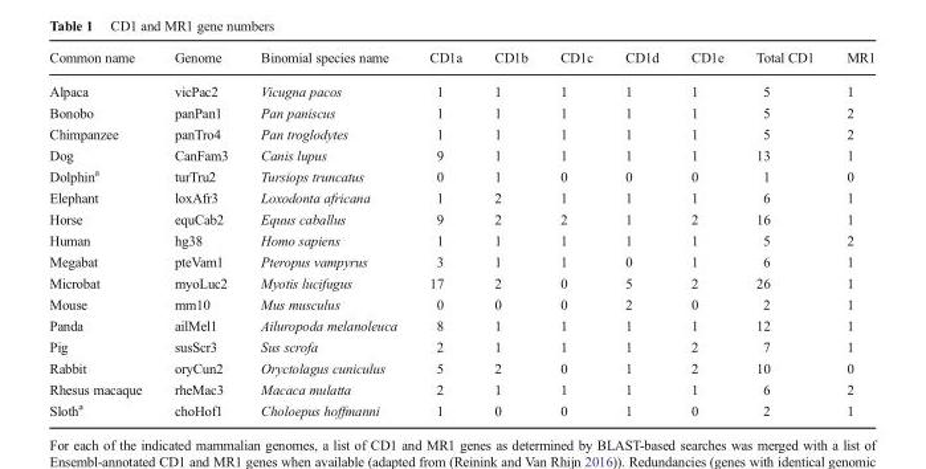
<table><thead><tr><td>Common name</td><td>Genome</td><td>Binomial species name</td><td>CD1a</td><td>CD1b</td><td>CD1c</td><td>CD1d</td><td>CD1e</td><td>Total CD1</td><td>MR1</td></tr></thead><tbody><tr><td>Alpaca</td><td>vicPac2</td><td>Vicugna pacos</td><td>1</td><td>1</td><td>1</td><td>1</td><td>1</td><td>5</td><td>1</td></tr><tr><td>Bonobo</td><td>panPan1</td><td>Pan paniscus</td><td>1</td><td>1</td><td>1</td><td>1</td><td>1</td><td>5</td><td>2</td></tr><tr><td>Chimpanzee</td><td>panTro4</td><td>Pan troglodytes</td><td>1</td><td>1</td><td>1</td><td>1</td><td>1</td><td>5</td><td>2</td></tr><tr><td>Dog</td><td>CanFam3</td><td>Canis lupus</td><td>9</td><td>1</td><td>1</td><td>1</td><td>1</td><td>13</td><td>1</td></tr><tr><td>Dolphin<sup>a</sup></td><td>turTru2</td><td>Tursiops truncatus</td><td>0</td><td>1</td><td>0</td><td>0</td><td>0</td><td>1</td><td>0</td></tr><tr><td>Elephant</td><td>loxAfr3</td><td>Loxodonta africana</td><td>1</td><td>2</td><td>1</td><td>1</td><td>1</td><td>6</td><td>1</td></tr><tr><td>Horse</td><td>equCab2</td><td>Equus caballus</td><td>9</td><td>2</td><td>2</td><td>1</td><td>2</td><td>16</td><td>1</td></tr><tr><td>Human</td><td>hg38</td><td>Homo sapiens</td><td>1</td><td>1</td><td>1</td><td>1</td><td>1</td><td>5</td><td>2</td></tr><tr><td>Megabat</td><td>pteVam1</td><td>Pteropus vampyrus</td><td>3</td><td>1</td><td>1</td><td>0</td><td>1</td><td>6</td><td>1</td></tr><tr><td>Microbat</td><td>myoLuc2</td><td>Myotis lucifugus</td><td>17</td><td>2</td><td>0</td><td>5</td><td>2</td><td>26</td><td>1</td></tr><tr><td>Mouse</td><td>mm10</td><td>Mus musculus</td><td>0</td><td>0</td><td>0</td><td>2</td><td>0</td><td>2</td><td>1</td></tr><tr><td>Panda</td><td>ailMel1</td><td>Ailuropoda melanoleuca</td><td>8</td><td>1</td><td>1</td><td>1</td><td>1</td><td>12</td><td>1</td></tr><tr><td>Pig</td><td>susScr3</td><td>Sus scrofa</td><td>2</td><td>1</td><td>1</td><td>1</td><td>2</td><td>7</td><td>1</td></tr><tr><td>Rabbit</td><td>oryCun2</td><td>Oryctolagus cuniculus</td><td>5</td><td>2</td><td>0</td><td>1</td><td>2</td><td>10</td><td>0</td></tr><tr><td>Rhesus macaque</td><td>rheMac3</td><td>Macaca mulatta</td><td>2</td><td>1</td><td>1</td><td>1</td><td>1</td><td>6</td><td>2</td></tr><tr><td>Sloth<sup>a</sup></td><td>choHof1</td><td>Choloepus hoffmanni</td><td>1</td><td>0</td><td>0</td><td>1</td><td>0</td><td>2</td><td>1</td></tr></tbody></table>